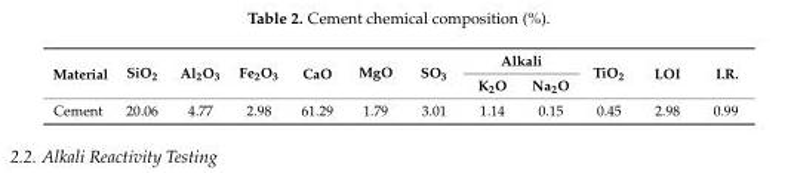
<table><thead><tr><td rowspan="2">Material</td><td rowspan="2">SiO<sub>2</sub></td><td rowspan="2">Al<sub>2</sub>O<sub>3</sub></td><td rowspan="2">Fe<sub>2</sub>O<sub>3</sub></td><td rowspan="2">CaO</td><td rowspan="2">MgO</td><td rowspan="2">SO<sub>3</sub></td><td colspan="2">Alkali</td><td rowspan="2">TiO<sub>2</sub></td><td rowspan="2">LOI</td><td rowspan="2">I.R.</td></tr><tr><td>K<sub>2</sub>O</td><td>Na<sub>2</sub>O</td></tr></thead><tbody><tr><td>Cement</td><td>20.06</td><td>4.77</td><td>2.98</td><td>61.29</td><td>1.79</td><td>3.01</td><td>1.14</td><td>0.15</td><td>0.45</td><td>2.98</td><td>0.99</td></tr></tbody></table>